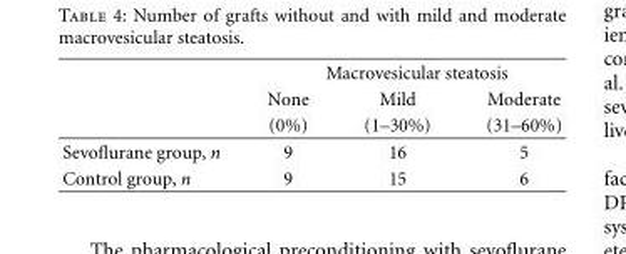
<table><thead><tr><td rowspan="3"></td><td colspan="3">Macrovesicular steatosis</td></tr><tr><td rowspan="2">None (0%)</td><td rowspan="2">Mild (1–30%)</td><td rowspan="2">Moderate (31–60%)</td></tr><tr></tr></thead><tbody><tr><td>Sevoflurane group, n</td><td>9</td><td>16</td><td>5</td></tr><tr><td>Control group, n</td><td>9</td><td>15</td><td>6</td></tr></tbody></table>